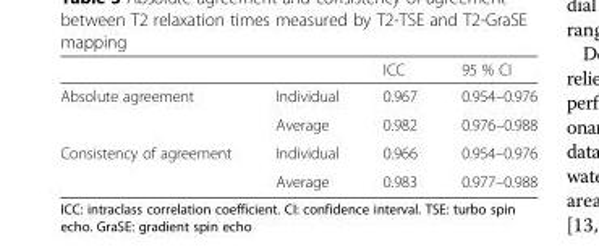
<table><thead><tr><td></td><td></td><td>ICC</td><td>95 % CI</td></tr></thead><tbody><tr><td rowspan="2">Absolute agreement</td><td>Individual</td><td>0.967</td><td>0.954–0.976</td></tr><tr><td>Average</td><td>0.982</td><td>0.976–0.988</td></tr><tr><td rowspan="2">Consistency of agreement</td><td>Individual</td><td>0.966</td><td>0.954–0.976</td></tr><tr><td>Average</td><td>0.983</td><td>0.977–0.988</td></tr></tbody></table>